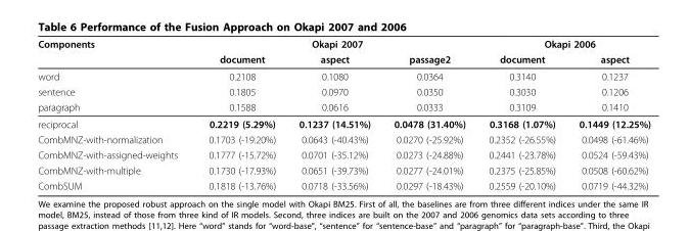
<table><thead><tr><td rowspan="2">Components</td><td colspan="3">Okapi 2007</td><td colspan="2">Okapi 2006</td></tr><tr><td>document</td><td>aspect</td><td>passage2</td><td>document</td><td>aspect</td></tr></thead><tbody><tr><td>word</td><td>0.2108</td><td>0.1080</td><td>0.0364</td><td>0.3140</td><td>0.1237</td></tr><tr><td>sentence</td><td>0.1805</td><td>0.0970</td><td>0.0350</td><td>0.3030</td><td>0.1206</td></tr><tr><td>paragraph</td><td>0.1588</td><td>0.0616</td><td>0.0333</td><td>0.3109</td><td>0.1410</td></tr><tr><td>reciprocal</td><td>0.2219 (5.29%)</td><td>0.1237 (14.51%)</td><td>0.0478 (31.40%)</td><td>0.3168 (1.07%)</td><td>0.1449 (12.25%)</td></tr><tr><td>CombMNZ-with-normalization</td><td>0.1703 (-19.20%)</td><td>0.0643 (-40.43%)</td><td>0.0270 (-25.92%)</td><td>0.2352 (-26.55%)</td><td>0.0498 (-61.46%)</td></tr><tr><td>CombMNZ-with-assigned-weights</td><td>0.1777 (-15.72%)</td><td>0.0701 (-35.12%)</td><td>0.0273 (-24.88%)</td><td>0.2441 (-23.78%)</td><td>0.0524 (-59.43%)</td></tr><tr><td>CombMNZ-with-multiple</td><td>0.1730 (-17.93%)</td><td>0.0651 (-39.73%)</td><td>0.0277 (-24.01%)</td><td>0.2375 (-25.85%)</td><td>0.0508 (-60.62%)</td></tr><tr><td>CombSUM</td><td>0.1818 (-13.76%)</td><td>0.0718 (-33.56%)</td><td>0.0297 (-18.43%)</td><td>0.2559 (-20.10%)</td><td>0.0719 (-44.32%)</td></tr></tbody></table>